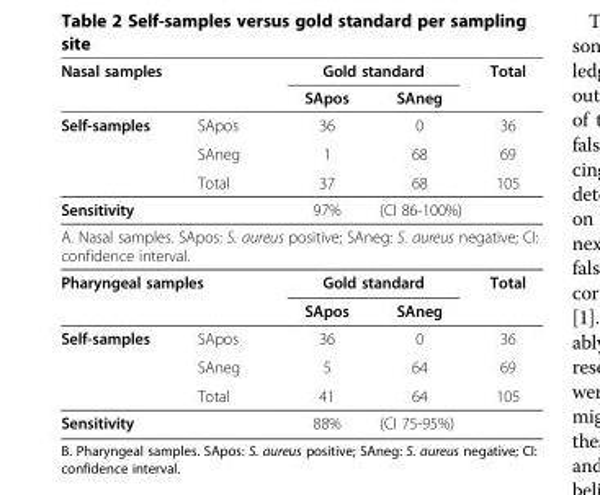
<table><thead><tr><td colspan="2">Nasal samples</td><td colspan="2">Gold standard</td><td rowspan="2">Total</td></tr><tr><td></td><td></td><td>SApos</td><td>SAneg</td></tr></thead><tbody><tr><td rowspan="3">Self-samples</td><td>SApos</td><td>36</td><td>0</td><td>36</td></tr><tr><td>SAneg</td><td>1</td><td>68</td><td>69</td></tr><tr><td>Total</td><td>37</td><td>68</td><td>105</td></tr><tr><td colspan="2">Sensitivity</td><td>97%</td><td>(CI 86-100%)</td><td></td></tr><tr><td colspan="5">A. Nasal samples. SApos: S. aureus positive; SAneg: S. aureus negative; CI: confidence interval.</td></tr><tr><td colspan="2">Pharyngeal samples</td><td colspan="2">Gold standard</td><td>Total</td></tr><tr><td></td><td></td><td>SApos</td><td>SAneg</td><td></td></tr><tr><td rowspan="3">Self-samples</td><td>SApos</td><td>36</td><td>0</td><td>36</td></tr><tr><td>SAneg</td><td>5</td><td>64</td><td>69</td></tr><tr><td>Total</td><td>41</td><td>64</td><td>105</td></tr><tr><td colspan="2">Sensitivity</td><td>88%</td><td>(CI 75-95%)</td><td></td></tr></tbody></table>